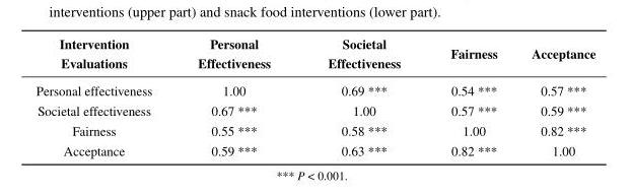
<table><thead><tr><td>Intervention Evaluations</td><td>Personal Effectiveness</td><td>Societal Effectiveness</td><td>Fairness</td><td>Acceptance</td></tr></thead><tbody><tr><td>Personal effectiveness</td><td>1.00</td><td>0.69 ***</td><td>0.54 ***</td><td>0.57 ***</td></tr><tr><td>Societal effectiveness</td><td>0.67 ***</td><td>1.00</td><td>0.57 ***</td><td>0.59 ***</td></tr><tr><td>Fairness</td><td>0.55 ***</td><td>0.58 ***</td><td>1.00</td><td>0.82 ***</td></tr><tr><td>Acceptance</td><td>0.59 ***</td><td>0.63 ***</td><td>0.82 ***</td><td>1.00</td></tr></tbody></table>